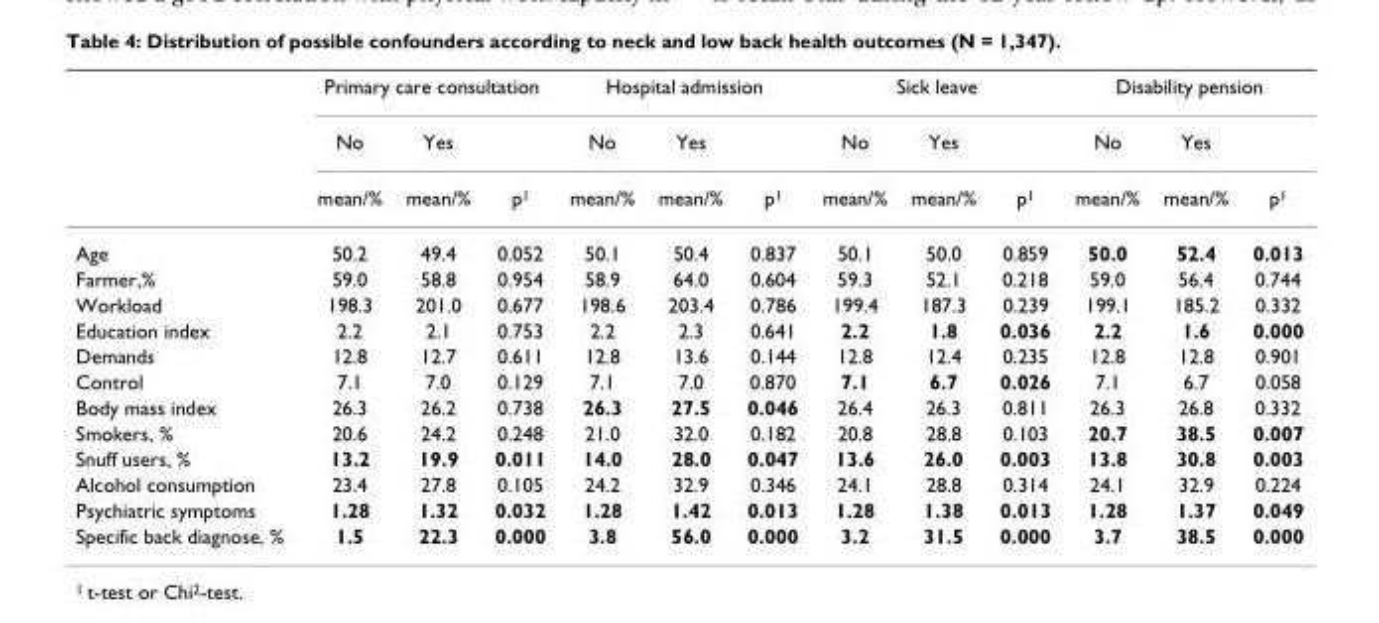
<table><thead><tr><td rowspan="3"></td><td colspan="3">Primary care consultation</td><td colspan="3">Hospital admission</td><td colspan="3">Sick leave</td><td colspan="3">Disability pension</td></tr><tr><td rowspan="2">No mean/%</td><td rowspan="2">Yes mean/%</td><td rowspan="2">p1</td><td rowspan="2">No mean/%</td><td rowspan="2">Yes mean/%</td><td rowspan="2">p1</td><td rowspan="2">No mean/%</td><td rowspan="2">Yes mean/%</td><td rowspan="2">p1</td><td rowspan="2">No mean/%</td><td rowspan="2">Yes mean/%</td><td rowspan="2">p1</td></tr><tr></tr></thead><tbody><tr><td>Age</td><td>50.2</td><td>49.4</td><td>0.052</td><td>50.1</td><td>50.4</td><td>0.837</td><td>50.1</td><td>50.0</td><td>0.859</td><td>50.0</td><td>52.4</td><td>0.013</td></tr><tr><td>Farmer,%</td><td>59.0</td><td>58.8</td><td>0.954</td><td>58.9</td><td>64.0</td><td>0.604</td><td>59.3</td><td>52.1</td><td>0.218</td><td>59.0</td><td>56.4</td><td>0.744</td></tr><tr><td>Workload</td><td>198.3</td><td>201.0</td><td>0.677</td><td>198.6</td><td>203.4</td><td>0.786</td><td>199.4</td><td>187.3</td><td>0.239</td><td>199.1</td><td>185.2</td><td>0.332</td></tr><tr><td>Education index</td><td>2.2</td><td>2.1</td><td>0.753</td><td>2.2</td><td>2.3</td><td>0.641</td><td>2.2</td><td>1.8</td><td>0.036</td><td>2.2</td><td>1.6</td><td>0.000</td></tr><tr><td>Demands</td><td>12.8</td><td>12.7</td><td>0.611</td><td>12.8</td><td>13.6</td><td>0.144</td><td>12.8</td><td>12.4</td><td>0.235</td><td>12.8</td><td>12.8</td><td>0.901</td></tr><tr><td>Control</td><td>7.1</td><td>7.0</td><td>0.129</td><td>7.1</td><td>7.0</td><td>0.870</td><td>7.1</td><td>6.7</td><td>0.026</td><td>7.1</td><td>6.7</td><td>0.058</td></tr><tr><td>Body mass index</td><td>26.3</td><td>26.2</td><td>0.738</td><td>26.3</td><td>27.5</td><td>0.046</td><td>26.4</td><td>26.3</td><td>0.811</td><td>26.3</td><td>26.8</td><td>0.332</td></tr><tr><td>Smokers, %</td><td>20.6</td><td>24.2</td><td>0.248</td><td>21.0</td><td>32.0</td><td>0.182</td><td>20.8</td><td>28.8</td><td>0.103</td><td>20.7</td><td>38.5</td><td>0.007</td></tr><tr><td>Snuff users, %</td><td>13.2</td><td>19.9</td><td>0.011</td><td>14.0</td><td>28.0</td><td>0.047</td><td>13.6</td><td>26.0</td><td>0.003</td><td>13.8</td><td>30.8</td><td>0.003</td></tr><tr><td>Alcohol consumption</td><td>23.4</td><td>27.8</td><td>0.105</td><td>24.2</td><td>32.9</td><td>0.346</td><td>24.1</td><td>28.8</td><td>0.314</td><td>24.1</td><td>32.9</td><td>0.224</td></tr><tr><td>Psychiatric symptoms</td><td>1.28</td><td>1.32</td><td>0.032</td><td>1.28</td><td>1.42</td><td>0.013</td><td>1.28</td><td>1.38</td><td>0.013</td><td>1.28</td><td>1.37</td><td>0.049</td></tr><tr><td>Specific back diagnose, %</td><td>1.5</td><td>22.3</td><td>0.000</td><td>3.8</td><td>56.0</td><td>0.000</td><td>3.2</td><td>31.5</td><td>0.000</td><td>3.7</td><td>38.5</td><td>0.000</td></tr></tbody></table>